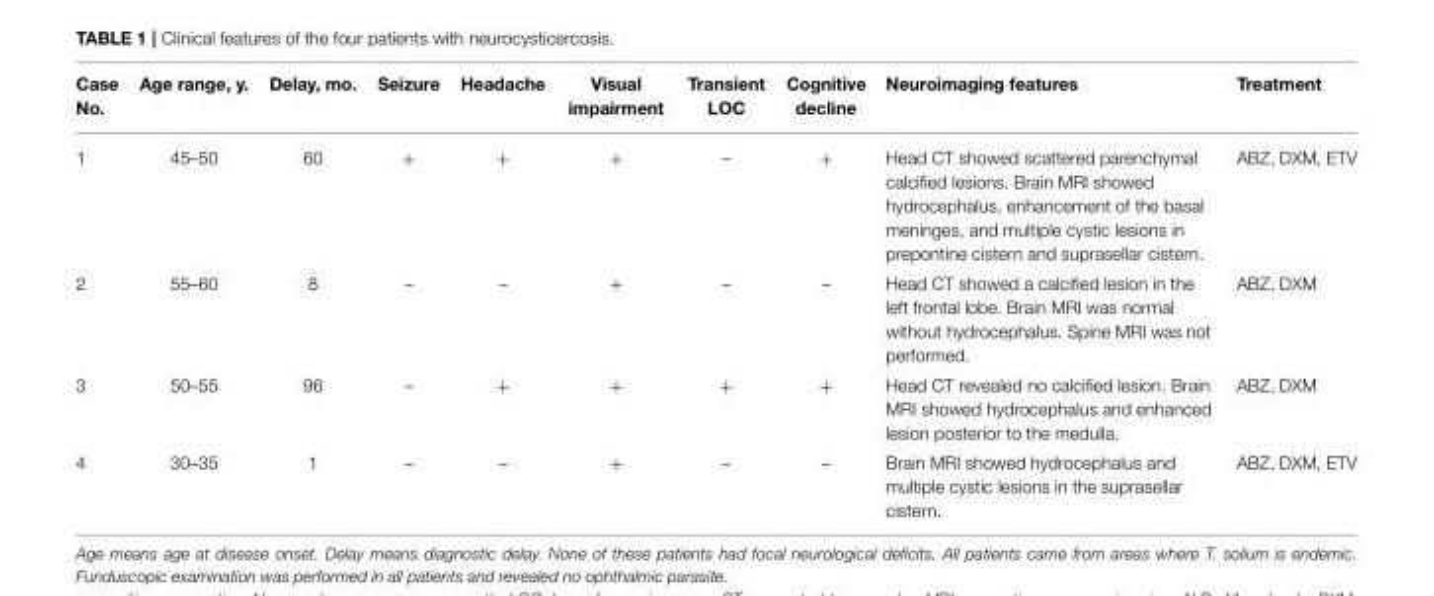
<table><thead><tr><td>Case No.</td><td>Age range, y.</td><td>Delay, mo.</td><td>Seizure</td><td>Headache</td><td>Visual impairment</td><td>Transient LOC</td><td>Cognitive decline</td><td>Neuroimaging features</td><td>Treatment</td></tr></thead><tbody><tr><td>1</td><td>45–50</td><td>60</td><td>+</td><td>+</td><td>+</td><td>–</td><td>+</td><td>Head CT showed scattered parenchymal calcified lesions. Brain MRI showed hydrocephalus, enhancement of the basal meninges, and multiple cystic lesions in prepontine cistern and suprasellar cistern.</td><td>ABZ, DXM, ETV</td></tr><tr><td>2</td><td>55–60</td><td>8</td><td>–</td><td>–</td><td>+</td><td>–</td><td>–</td><td>Head CT showed a calcified lesion in the left frontal lobe. Brain MRI was normal without hydrocephalus. Spine MRI was not performed.</td><td>ABZ, DXM</td></tr><tr><td>3</td><td>50–55</td><td>96</td><td>–</td><td>+</td><td>+</td><td>+</td><td>+</td><td>Head CT revealed no calcified lesion. Brain MRI showed hydrocephalus and enhanced lesion posterior to the medulla.</td><td>ABZ, DXM</td></tr><tr><td>4</td><td>30–35</td><td>1</td><td>–</td><td>–</td><td>+</td><td>–</td><td>–</td><td>Brain MRI showed hydrocephalus and multiple cystic lesions in the suprasellar cistern.</td><td>ABZ, DXM, ETV</td></tr></tbody></table>